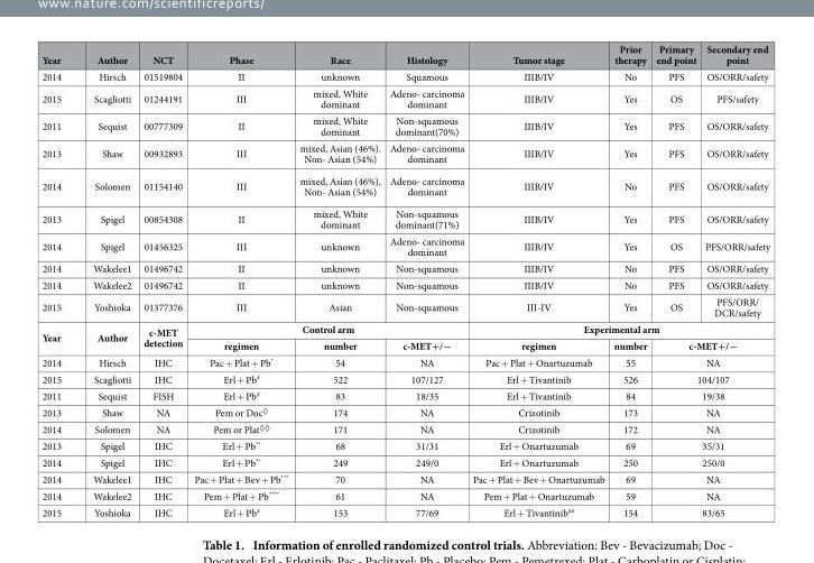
<table><thead><tr><td>Year</td><td>Author</td><td>NCT</td><td>Phase</td><td>Race</td><td>Histology</td><td>Tumor stage</td><td>Prior therapy</td><td>Primary end point</td><td>Secondary end point</td></tr></thead><tbody><tr><td>2014</td><td>Hirsch</td><td>01519804</td><td>II</td><td>unknown</td><td>Squamous</td><td>IIIB/IV</td><td>No</td><td>PFS</td><td>OS/ORR/safety</td></tr><tr><td>2015</td><td>Scagliotti</td><td>01244191</td><td>III</td><td>mixed, White dominant</td><td>Adeno- carcinoma dominant</td><td>IIIB/IV</td><td>Yes</td><td>OS</td><td>PFS/safety</td></tr><tr><td>2011</td><td>Sequist</td><td>00777309</td><td>II</td><td>mixed, White dominant</td><td>Non-squamous dominant(70%)</td><td>IIIB/IV</td><td>Yes</td><td>PFS</td><td>OS/ORR/safety</td></tr><tr><td>2013</td><td>Shaw</td><td>00932893</td><td>III</td><td>mixed, Asian (46%). Non- Asian (54%)</td><td>Adeno- carcinoma dominant</td><td>IIIB/IV</td><td>Yes</td><td>PFS</td><td>OS/ORR/safety</td></tr><tr><td>2014</td><td>Solomen</td><td>01154140</td><td>III</td><td>mixed, Asian (46%), Non- Asian (54%)</td><td>Adeno- carcinoma dominant</td><td>IIIB/IV</td><td>No</td><td>PFS</td><td>OS/ORR/safety</td></tr><tr><td>2013</td><td>Spigel</td><td>00854308</td><td>II</td><td>mixed, White dominant</td><td>Non-squamous dominant(71%)</td><td>IIIB/IV</td><td>Yes</td><td>PFS</td><td>OS/ORR/safety</td></tr><tr><td>2014</td><td>Spigel</td><td>01456325</td><td>III</td><td>unknown</td><td>Adeno- carcinoma dominant</td><td>IIIB/IV</td><td>Yes</td><td>OS</td><td>PFS/ORR/safety</td></tr><tr><td>2014</td><td>Wakelee1</td><td>01496742</td><td>II</td><td>unknown</td><td>Non-squamous</td><td>IIIB/IV</td><td>No</td><td>PFS</td><td>OS/ORR/safety</td></tr><tr><td>2014</td><td>Wakelee2</td><td>01496742</td><td>II</td><td>unknown</td><td>Non-squamous</td><td>IIIB/IV</td><td>No</td><td>PFS</td><td>OS/ORR/safety</td></tr><tr><td>2015</td><td>Yoshioka</td><td>01377376</td><td>III</td><td>Asian</td><td>Non-squamous</td><td>III-IV</td><td>Yes</td><td>OS</td><td>PFS/ORR/ DCR/safety</td></tr><tr><td rowspan="2">Year</td><td rowspan="2">Author</td><td rowspan="2">c-MET detection</td><td colspan="3">Control arm</td><td colspan="4">Experimental arm</td></tr><tr><td>regimen</td><td>number</td><td>c-MET+/−</td><td>regimen</td><td>number</td><td colspan="2">c-MET+/−</td></tr><tr><td>2014</td><td>Hirsch</td><td>IHC</td><td>Pac + Plat + Pb*</td><td>54</td><td>NA</td><td>Pac + Plat + Onartuzumab</td><td>55</td><td colspan="2">NA</td></tr><tr><td>2015</td><td>Scagliotti</td><td>IHC</td><td>Erl + Pb<sup>#</sup></td><td>522</td><td>107/127</td><td>Erl + Tivantinib</td><td>526</td><td colspan="2">104/107</td></tr><tr><td>2011</td><td>Sequist</td><td>FISH</td><td>Erl + Pb<sup>#</sup></td><td>83</td><td>18/35</td><td>Erl + Tivantinib</td><td>84</td><td colspan="2">19/38</td></tr><tr><td>2013</td><td>Shaw</td><td>NA</td><td>Pem or Doc<sup>◊</sup></td><td>174</td><td>NA</td><td>Crizotinib</td><td>173</td><td colspan="2">NA</td></tr><tr><td>2014</td><td>Solomen</td><td>NA</td><td>Pem or Plat<sup>◊ ◊</sup></td><td>171</td><td>NA</td><td>Crizotinib</td><td>172</td><td colspan="2">NA</td></tr><tr><td>2013</td><td>Spigel</td><td>IHC</td><td>Erl + Pb**</td><td>68</td><td>31/31</td><td>Erl + Onartuzumab</td><td>69</td><td colspan="2">35/31</td></tr><tr><td>2014</td><td>Spigel</td><td>IHC</td><td>Erl + Pb**</td><td>249</td><td>249/0</td><td>Erl + Onartuzumab</td><td>250</td><td colspan="2">250/0</td></tr><tr><td>2014</td><td>Wakelee1</td><td>IHC</td><td>Pac + Plat + Bev + Pb***</td><td>70</td><td>NA</td><td>Pac + Plat + Bev + Onartuzumab</td><td>69</td><td colspan="2">NA</td></tr><tr><td>2014</td><td>Wakelee2</td><td>IHC</td><td>Pem + Plat + Pb****</td><td>61</td><td>NA</td><td>Pem + Plat + Onartuzumab</td><td>59</td><td colspan="2">NA</td></tr><tr><td>2015</td><td>Yoshioka</td><td>IHC</td><td>Erl + Pb<sup>#</sup></td><td>153</td><td>77/69</td><td>Erl + Tivantinib<sup>##</sup></td><td>154</td><td colspan="2">83/65</td></tr></tbody></table>